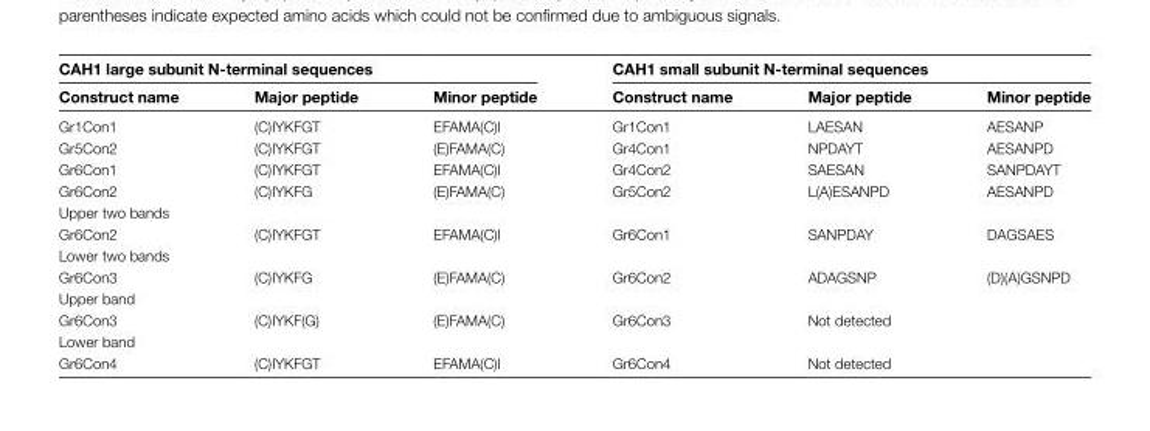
<table><thead><tr><td colspan="3">CAH1 large subunit N-terminal sequences</td><td colspan="3">CAH1 small subunit N-terminal sequences</td></tr><tr><td>Construct name</td><td>Major peptide</td><td>Minor peptide</td><td>Construct name</td><td>Major peptide</td><td>Minor peptide</td></tr></thead><tbody><tr><td>Gr1Con1</td><td>(C)IYKFGT</td><td>EFAMA(C)I</td><td>Gr1Con1</td><td>LAESAN</td><td>AESANP</td></tr><tr><td>Gr5Con2</td><td>(C)IYKFGT</td><td>(E)FAMA(C)</td><td>Gr4Con1</td><td>NPDAYT</td><td>AESANPD</td></tr><tr><td>Gr6Con1</td><td>(C)IYKFGT</td><td>EFAMA(C)I</td><td>Gr4Con2</td><td>SAESAN</td><td>SANPDAYT</td></tr><tr><td>Gr6Con2 Upper two bands</td><td>(C)IYKFG</td><td>(E)FAMA(C)</td><td>Gr5Con2</td><td>L(A)ESANPD</td><td>AESANPD</td></tr><tr><td>Gr6Con2 Lower two bands</td><td>(C)IYKFGT</td><td>EFAMA(C)I</td><td>Gr6Con1</td><td>SANPDAY</td><td>DAGSAES</td></tr><tr><td>Gr6Con3 Upper band</td><td>(C)IYKFG</td><td>(E)FAMA(C)</td><td>Gr6Con2</td><td>ADAGSNP</td><td>(D)(A)GSNPD</td></tr><tr><td>Gr6Con3 Lower band</td><td>(C)IYKF(G)</td><td>(E)FAMA(C)</td><td>Gr6Con3</td><td>Not detected</td><td></td></tr><tr><td>Gr6Con4</td><td>(C)IYKFGT</td><td>EFAMA(C)I</td><td>Gr6Con4</td><td>Not detected</td><td></td></tr></tbody></table>